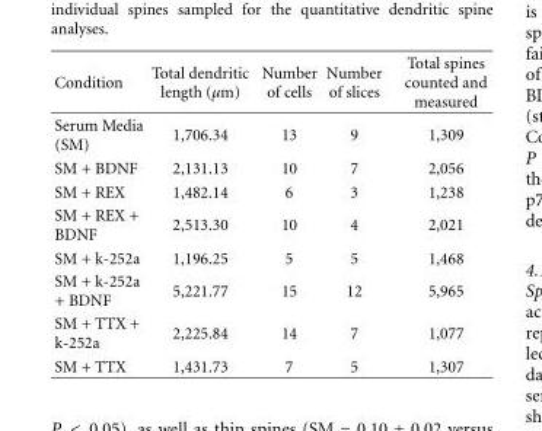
<table><thead><tr><td>Condition</td><td>Total dendritic length (µm)</td><td>Number of cells</td><td>Number of slices</td><td>Total spines counted and measured</td></tr></thead><tbody><tr><td>Serum Media (SM)</td><td>1,706.34</td><td>13</td><td>9</td><td>1,309</td></tr><tr><td>SM + BDNF</td><td>2,131.13</td><td>10</td><td>7</td><td>2,056</td></tr><tr><td>SM + REX</td><td>1,482.14</td><td>6</td><td>3</td><td>1,238</td></tr><tr><td>SM + REX + BDNF</td><td>2,513.30</td><td>10</td><td>4</td><td>2,021</td></tr><tr><td>SM + k-252a</td><td>1,196.25</td><td>5</td><td>5</td><td>1,468</td></tr><tr><td>SM + k-252a + BDNF</td><td>5,221.77</td><td>15</td><td>12</td><td>5,965</td></tr><tr><td>SM + TTX + k-252a</td><td>2,225.84</td><td>14</td><td>7</td><td>1,077</td></tr><tr><td>SM + TTX</td><td>1,431.73</td><td>7</td><td>5</td><td>1,307</td></tr></tbody></table>